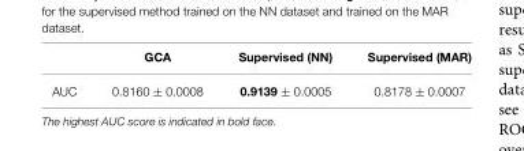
<table><thead><tr><td></td><td>GCA</td><td>Supervised (NN)</td><td>Supervised (MAR)</td></tr></thead><tbody><tr><td>AUC</td><td>0.8160 ± 0.0008</td><td>0.9139 ± 0.0005</td><td>0.8178 ± 0.0007</td></tr></tbody></table>